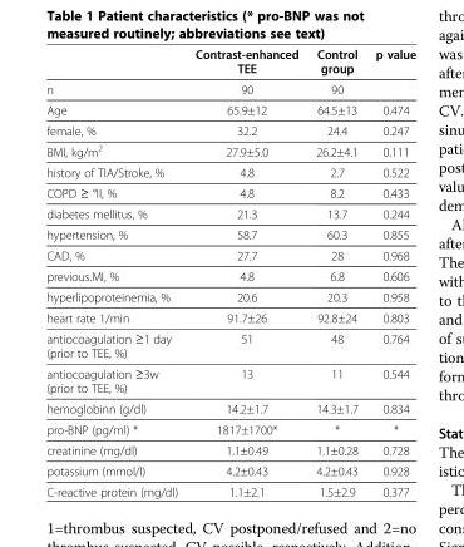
<table><thead><tr><td></td><td>Contrast-enhanced TEE</td><td>Control group</td><td>p value</td></tr></thead><tbody><tr><td>n</td><td>90</td><td>90</td><td></td></tr><tr><td>Age</td><td>65.9±12</td><td>64.5±13</td><td>0.474</td></tr><tr><td>female, %</td><td>32.2</td><td>24.4</td><td>0.247</td></tr><tr><td>BMI, kg/m<sup>2</sup></td><td>27.9±5.0</td><td>26.2±4.1</td><td>0.111</td></tr><tr><td>history of TIA/Stroke, %</td><td>4.8</td><td>2.7</td><td>0.522</td></tr><tr><td>COPD ≥ °II, %</td><td>4.8</td><td>8.2</td><td>0.433</td></tr><tr><td>diabetes mellitus, %</td><td>21.3</td><td>13.7</td><td>0.244</td></tr><tr><td>hypertension, %</td><td>58.7</td><td>60.3</td><td>0.855</td></tr><tr><td>CAD, %</td><td>27.7</td><td>28</td><td>0.968</td></tr><tr><td>previous.MI, %</td><td>4.8</td><td>6.8</td><td>0.606</td></tr><tr><td>hyperlipoproteinemia, %</td><td>20.6</td><td>20.3</td><td>0.958</td></tr><tr><td>heart rate 1/min</td><td>91.7±26</td><td>92.8±24</td><td>0.803</td></tr><tr><td>antiocoagulation ≥1 day (prior to TEE, %)</td><td>51</td><td>48</td><td>0.764</td></tr><tr><td>antiocoagulation ≥3w (prior to TEE, %)</td><td>13</td><td>11</td><td>0.544</td></tr><tr><td>hemoglobinn (g/dl)</td><td>14.2±1.7</td><td>14.3±1.7</td><td>0.834</td></tr><tr><td>pro-BNP (pg/ml) *</td><td>1817±1700*</td><td>*</td><td>*</td></tr><tr><td>creatinine (mg/dl)</td><td>1.1±0.49</td><td>1.1±0.28</td><td>0.728</td></tr><tr><td>potassium (mmol/l)</td><td>4.2±0.43</td><td>4.2±0.43</td><td>0.928</td></tr><tr><td>C-reactive protein (mg/dl)</td><td>1.1±2.1</td><td>1.5±2.9</td><td>0.377</td></tr></tbody></table>